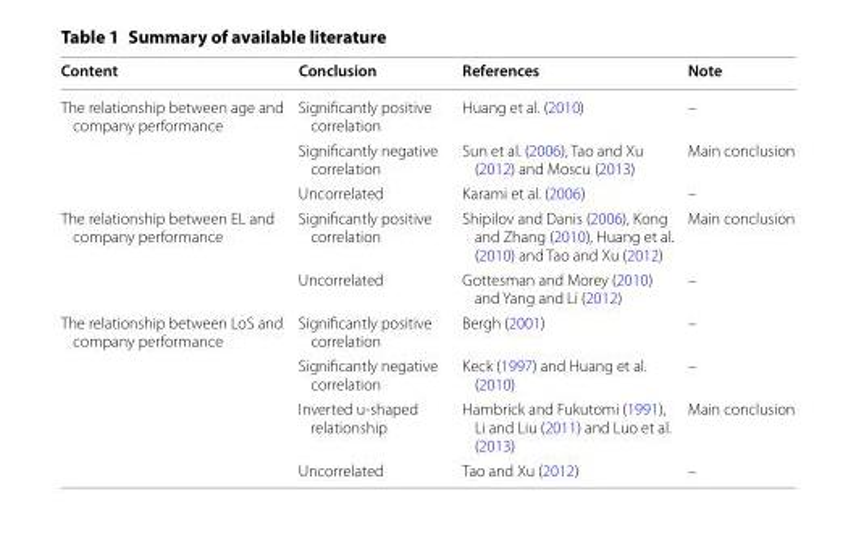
<table><thead><tr><td>Content</td><td>Conclusion</td><td>References</td><td>Note</td></tr></thead><tbody><tr><td rowspan="3">The relationship between age and company performance</td><td>Significantly positive correlation</td><td>Huang et al. (2010)</td><td>–</td></tr><tr><td>Significantly negative correlation</td><td>Sun et al. (2006), Tao and Xu (2012) and Moscu (2013)</td><td>Main conclusion</td></tr><tr><td>Uncorrelated</td><td>Karami et al. (2006)</td><td>–</td></tr><tr><td rowspan="2">The relationship between EL and company performance</td><td>Significantly positive correlation</td><td>Shipilov and Danis (2006), Kong and Zhang (2010), Huang et al. (2010) and Tao and Xu (2012)</td><td>Main conclusion</td></tr><tr><td>Uncorrelated</td><td>Gottesman and Morey (2010) and Yang and Li (2012)</td><td>–</td></tr><tr><td rowspan="4">The relationship between LoS and company performance</td><td>Significantly positive correlation</td><td>Bergh (2001)</td><td>–</td></tr><tr><td>Significantly negative correlation</td><td>Keck (1997) and Huang et al. (2010)</td><td>–</td></tr><tr><td>Inverted u-shaped relationship</td><td>Hambrick and Fukutomi (1991), Li and Liu (2011) and Luo et al. (2013)</td><td>Main conclusion</td></tr><tr><td>Uncorrelated</td><td>Tao and Xu (2012)</td><td>–</td></tr></tbody></table>